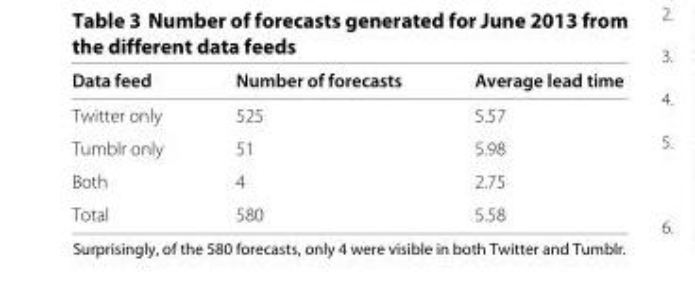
<table><thead><tr><td>Data feed</td><td>Number of forecasts</td><td>Average lead time</td></tr></thead><tbody><tr><td>Twitter only</td><td>525</td><td>5.57</td></tr><tr><td>Tumblr only</td><td>51</td><td>5.98</td></tr><tr><td>Both</td><td>4</td><td>2.75</td></tr><tr><td>Total</td><td>580</td><td>5.58</td></tr></tbody></table>